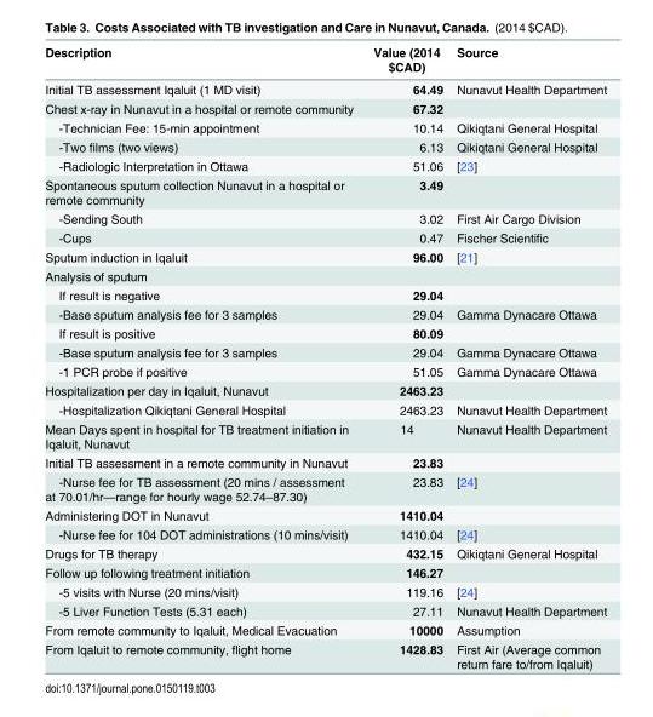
<table><thead><tr><td>Description</td><td>Value (2014 $CAD)</td><td>Source</td></tr></thead><tbody><tr><td>Initial TB assessment Iqaluit (1 MD visit)</td><td>64.49</td><td>Nunavut Health Department</td></tr><tr><td>Chest x-ray in Nunavut in a hospital or remote community</td><td>67.32</td><td></td></tr><tr><td>-Technician Fee: 15-min appointment</td><td>10.14</td><td>Qikiqtani General Hospital</td></tr><tr><td>-Two films (two views)</td><td>6.13</td><td>Qikiqtani General Hospital</td></tr><tr><td>-Radiologic Interpretation in Ottawa</td><td>51.06</td><td>[23]</td></tr><tr><td>Spontaneous sputum collection Nunavut in a hospital or remote community</td><td>3.49</td><td></td></tr><tr><td>-Sending South</td><td>3.02</td><td>First Air Cargo Division</td></tr><tr><td>-Cups</td><td>0.47</td><td>Fischer Scientific</td></tr><tr><td>Sputum induction in Iqaluit</td><td>96.00</td><td>[21]</td></tr><tr><td colspan="3">Analysis of sputum</td></tr><tr><td>If result is negative</td><td>29.04</td><td></td></tr><tr><td>-Base sputum analysis fee for 3 samples</td><td>29.04</td><td>Gamma Dynacare Ottawa</td></tr><tr><td>If result is positive</td><td>80.09</td><td></td></tr><tr><td>-Base sputum analysis fee for 3 samples</td><td>29.04</td><td>Gamma Dynacare Ottawa</td></tr><tr><td>-1 PCR probe if positive</td><td>51.05</td><td>Gamma Dynacare Ottawa</td></tr><tr><td>Hospitalization per day in Iqaluit, Nunavut</td><td>2463.23</td><td></td></tr><tr><td>-Hospitalization Qikiqtani General Hospital</td><td>2463.23</td><td>Nunavut Health Department</td></tr><tr><td>Mean Days spent in hospital for TB treatment initiation in Iqaluit, Nunavut</td><td>14</td><td>Nunavut Health Department</td></tr><tr><td>Initial TB assessment in a remote community in Nunavut</td><td>23.83</td><td></td></tr><tr><td>-Nurse fee for TB assessment (20 mins / assessment at 70.01/hr—range for hourly wage 52.74–87.30)</td><td>23.83</td><td>[24]</td></tr><tr><td>Administering DOT in Nunavut</td><td>1410.04</td><td></td></tr><tr><td>-Nurse fee for 104 DOT administrations (10 mins/visit)</td><td>1410.04</td><td>[24]</td></tr><tr><td>Drugs for TB therapy</td><td>432.15</td><td>Qikiqtani General Hospital</td></tr><tr><td>Follow up following treatment initiation</td><td>146.27</td><td></td></tr><tr><td>-5 visits with Nurse (20 mins/visit)</td><td>119.16</td><td>[24]</td></tr><tr><td>-5 Liver Function Tests (5.31 each)</td><td>27.11</td><td>Nunavut Health Department</td></tr><tr><td>From remote community to Iqaluit, Medical Evacuation</td><td>10000</td><td>Assumption</td></tr><tr><td>From Iqaluit to remote community, flight home</td><td>1428.83</td><td>First Air (Average common return fare to/from Iqaluit)</td></tr></tbody></table>